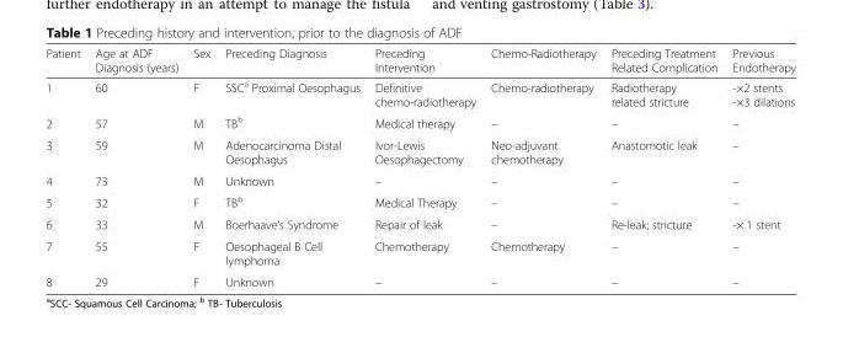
<table><thead><tr><td>Patient</td><td>Age at ADF Diagnosis (years)</td><td>Sex</td><td>Preceding Diagnosis</td><td>Preceding Intervention</td><td>Chemo-Radiotherapy</td><td>Preceding Treatment Related Complication</td><td>Previous Endotherapy</td></tr></thead><tbody><tr><td>1</td><td>60</td><td>F</td><td>SSC<sup>a</sup> Proximal Oesophagus</td><td>Definitive chemo-radiotherapy</td><td>Chemo-radiotherapy</td><td>Radiotherapy related stricture</td><td>-×2 stents -×3 dilations</td></tr><tr><td>2</td><td>57</td><td>M</td><td>TB<sup>b</sup></td><td>Medical therapy</td><td>–</td><td>–</td><td>–</td></tr><tr><td>3</td><td>59</td><td>M</td><td>Adenocarcinoma Distal Oesophagus</td><td>Ivor-Lewis Oesophagectomy</td><td>Neo-adjuvant chemotherapy</td><td>Anastomotic leak</td><td>–</td></tr><tr><td>4</td><td>73</td><td>M</td><td>Unknown</td><td>–</td><td>–</td><td>–</td><td>–</td></tr><tr><td>5</td><td>32</td><td>F</td><td>TB<sup>b</sup></td><td>Medical Therapy</td><td>–</td><td>–</td><td>–</td></tr><tr><td>6</td><td>33</td><td>M</td><td>Boerhaave’s Syndrome</td><td>Repair of leak</td><td>–</td><td>Re-leak; stricture</td><td>-× 1 stent</td></tr><tr><td>7</td><td>55</td><td>F</td><td>Oesophageal B Cell lymphoma</td><td>Chemotherapy</td><td>Chemotherapy</td><td>–</td><td>–</td></tr><tr><td>8</td><td>29</td><td>F</td><td>Unknown</td><td>–</td><td>–</td><td>–</td><td>–</td></tr></tbody></table>